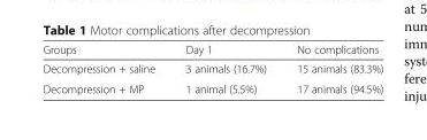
<table><thead><tr><td>Groups</td><td>Day 1</td><td>No complications</td></tr></thead><tbody><tr><td>Decompression + saline</td><td>3 animals (16.7%)</td><td>15 animals (83.3%)</td></tr><tr><td>Decompression + MP</td><td>1 animal (5.5%)</td><td>17 animals (94.5%)</td></tr></tbody></table>